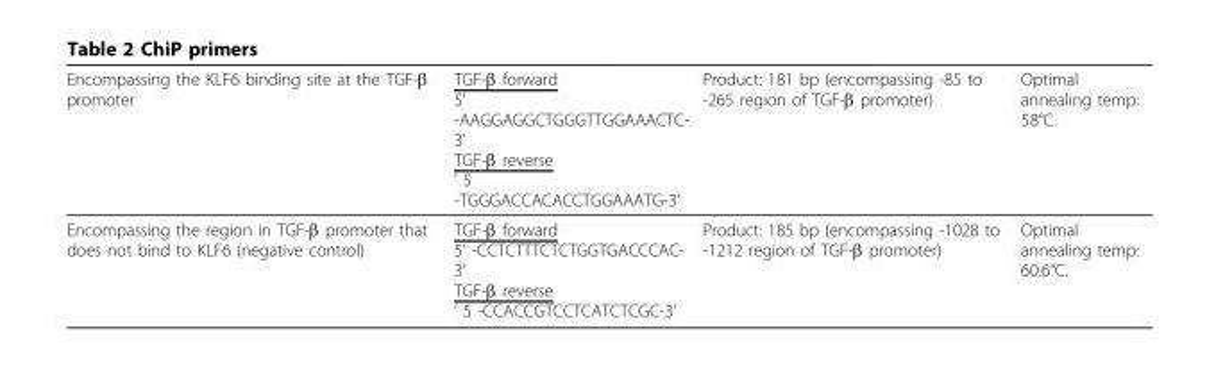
<table><thead><tr><td>Encompassing the KLF6 binding site at the TGF-β promoter</td><td>TGF-β forward 5’ -AAGGAGGCTGGGTTGGAAACTC- 3’ TGF-β reverse ’ 5 -TGGGACCACACCTGGAAATG-3’</td><td>Product: 181 bp (encompassing -85 to -265 region of TGF-β promoter)</td><td>Optimal annealing temp: 58°C.</td></tr></thead><tbody><tr><td>Encompassing the region in TGF-β promoter that does not bind to KLF6 (negative control)</td><td>TGF-β forward 5’ -CCTCTTTCTCTGGTGACCCAC- 3’ TGF-β reverse ’ 5 -CCACCGTCCTCATCTCGC-3’</td><td>Product: 185 bp (encompassing -1028 to -1212 region of TGF-β promoter)</td><td>Optimal annealing temp: 60.6°C.</td></tr></tbody></table>